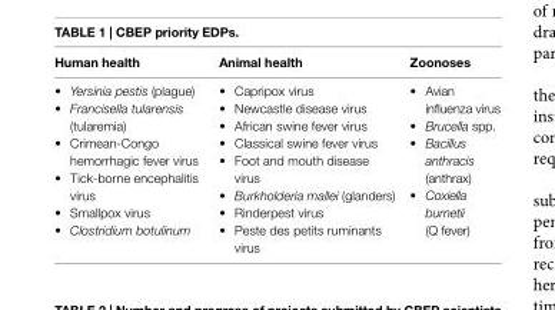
<table><thead><tr><td>Human health</td><td>Animal health</td><td>Zoonoses</td></tr></thead><tbody><tr><td>• Yersinia pestis (plague) • Francisella tularensis (tularemia) • Crimean-Congo hemorrhagic fever virus • Tick-borne encephalitis virus • Smallpox virus • Clostridium botulinum</td><td>• Capripox virus • Newcastle disease virus • African swine fever virus • Classical swine fever virus • Foot and mouth disease virus • Burkholderia mallei (glanders) • Rinderpest virus • Peste des petits ruminants virus</td><td>• Avian influenza virus • Brucella spp. • Bacillus anthracis (anthrax) • Coxiella burnetii (Q fever)</td></tr></tbody></table>